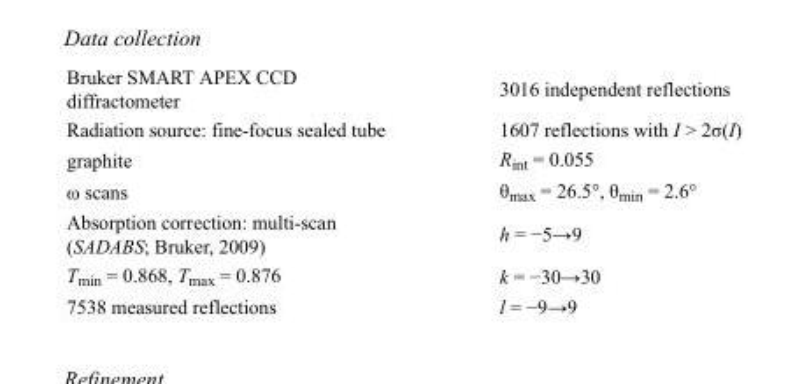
<table><tbody><tr><td>Bruker SMART APEX CCD diffractometer</td><td>3016 independent reflections</td></tr><tr><td>Radiation source: fine-focus sealed tube</td><td>1607 reflections with I &gt; 2σ(I)</td></tr><tr><td>graphite</td><td>R<sub>int</sub> = 0.055</td></tr><tr><td>ω scans</td><td>θ<sub>max</sub> = 26.5°, θ<sub>min</sub> = 2.6°</td></tr><tr><td>Absorption correction: multi-scan (SADABS; Bruker, 2009)</td><td>h = −5→9</td></tr><tr><td>T<sub>min</sub> = 0.868, T<sub>max</sub> = 0.876</td><td>k = −30→30</td></tr><tr><td>7538 measured reflections</td><td>l = −9→9</td></tr></tbody></table>